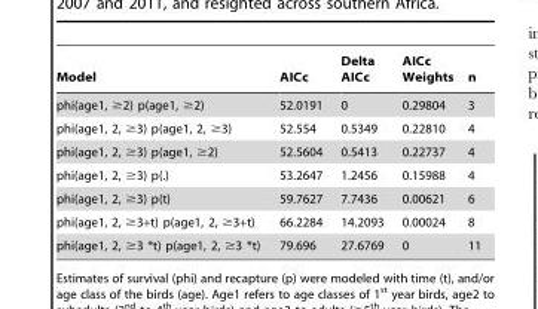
<table><thead><tr><td>Model</td><td>AICc</td><td>Delta AICc</td><td>AICc Weights</td><td>n</td></tr></thead><tbody><tr><td>phi(age1, ≥2) p(age1, ≥2)</td><td>52.0191</td><td>0</td><td>0.29804</td><td>3</td></tr><tr><td>phi(age1, 2, ≥3) p(age1, 2, ≥3)</td><td>52.554</td><td>0.5349</td><td>0.22810</td><td>4</td></tr><tr><td>phi(age1, 2, ≥3) p(age1, ≥2)</td><td>52.5604</td><td>0.5413</td><td>0.22737</td><td>4</td></tr><tr><td>phi(age1, 2, ≥3) p(.)</td><td>53.2647</td><td>1.2456</td><td>0.15988</td><td>4</td></tr><tr><td>phi(age1, 2, ≥3) p(t)</td><td>59.7627</td><td>7.7436</td><td>0.00621</td><td>6</td></tr><tr><td>phi(age1, 2, ≥3+t) p(age1, 2, ≥3+t)</td><td>66.2284</td><td>14.2093</td><td>0.00024</td><td>8</td></tr><tr><td>phi(age1, 2, ≥3 *t) p(age1, 2, ≥3 *t)</td><td>79.696</td><td>27.6769</td><td>0</td><td>11</td></tr></tbody></table>